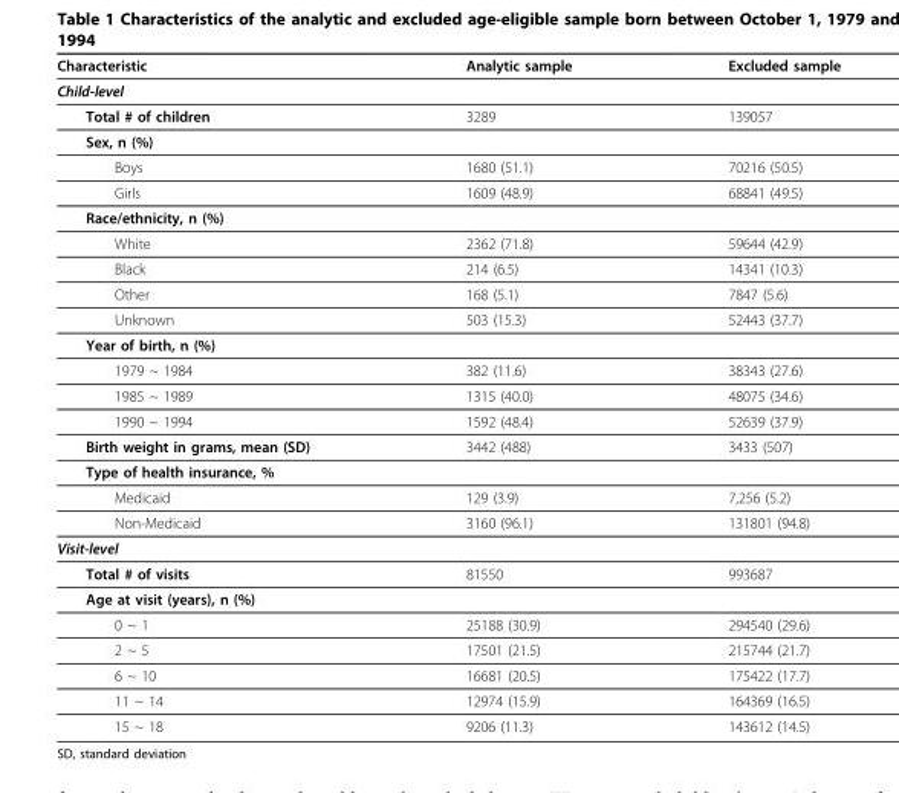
<table><thead><tr><td>Characteristic</td><td>Analytic sample</td><td>Excluded sample</td></tr></thead><tbody><tr><td colspan="3">Child-level</td></tr><tr><td>Total # of children</td><td>3289</td><td>139057</td></tr><tr><td colspan="3">Sex, n (%)</td></tr><tr><td>Boys</td><td>1680 (51.1)</td><td>70216 (50.5)</td></tr><tr><td>Girls</td><td>1609 (48.9)</td><td>68841 (49.5)</td></tr><tr><td colspan="3">Race/ethnicity, n (%)</td></tr><tr><td>White</td><td>2362 (71.8)</td><td>59644 (42.9)</td></tr><tr><td>Black</td><td>214 (6.5)</td><td>14341 (10.3)</td></tr><tr><td>Other</td><td>168 (5.1)</td><td>7847 (5.6)</td></tr><tr><td>Unknown</td><td>503 (15.3)</td><td>52443 (37.7)</td></tr><tr><td colspan="3">Year of birth, n (%)</td></tr><tr><td>1979 ~ 1984</td><td>382 (11.6)</td><td>38343 (27.6)</td></tr><tr><td>1985 ~ 1989</td><td>1315 (40.0)</td><td>48075 (34.6)</td></tr><tr><td>1990 ~ 1994</td><td>1592 (48.4)</td><td>52639 (37.9)</td></tr><tr><td>Birth weight in grams, mean (SD)</td><td>3442 (488)</td><td>3433 (507)</td></tr><tr><td colspan="3">Type of health insurance, %</td></tr><tr><td>Medicaid</td><td>129 (3.9)</td><td>7,256 (5.2)</td></tr><tr><td>Non-Medicaid</td><td>3160 (96.1)</td><td>131801 (94.8)</td></tr><tr><td colspan="3">Visit-level</td></tr><tr><td>Total # of visits</td><td>81550</td><td>993687</td></tr><tr><td colspan="3">Age at visit (years), n (%)</td></tr><tr><td>0 ~ 1</td><td>25188 (30.9)</td><td>294540 (29.6)</td></tr><tr><td>2 ~ 5</td><td>17501 (21.5)</td><td>215744 (21.7)</td></tr><tr><td>6 ~ 10</td><td>16681 (20.5)</td><td>175422 (17.7)</td></tr><tr><td>11 ~ 14</td><td>12974 (15.9)</td><td>164369 (16.5)</td></tr><tr><td>15 ~ 18</td><td>9206 (11.3)</td><td>143612 (14.5)</td></tr></tbody></table>